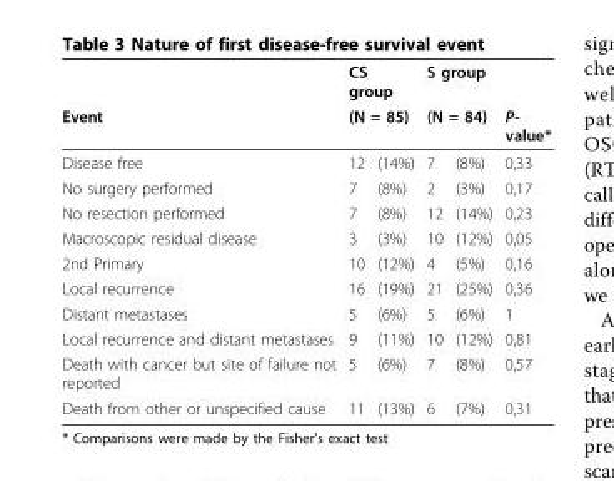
<table><thead><tr><td rowspan="3">Event Disease free</td><td rowspan="2" colspan="2">CS group (N = 85)</td><td rowspan="2" colspan="2">S group (N = 84)</td><td rowspan="3">P- value* 0,33</td></tr><tr></tr><tr><td>12</td><td>(14%)</td><td>7</td><td>(8%)</td></tr></thead><tbody><tr><td>No surgery performed</td><td>7</td><td>(8%)</td><td>2</td><td>(3%)</td><td>0,17</td></tr><tr><td>No resection performed</td><td>7</td><td>(8%)</td><td>12</td><td>(14%)</td><td>0,23</td></tr><tr><td>Macroscopic residual disease</td><td>3</td><td>(3%)</td><td>10</td><td>(12%)</td><td>0,05</td></tr><tr><td>2nd Primary</td><td>10</td><td>(12%)</td><td>4</td><td>(5%)</td><td>0,16</td></tr><tr><td>Local recurrence</td><td>16</td><td>(19%)</td><td>21</td><td>(25%)</td><td>0,36</td></tr><tr><td>Distant metastases</td><td>5</td><td>(6%)</td><td>5</td><td>(6%)</td><td>1</td></tr><tr><td>Local recurrence and distant metastases</td><td>9</td><td>(11%)</td><td>10</td><td>(12%)</td><td>0,81</td></tr><tr><td>Death with cancer but site of failure not reported</td><td>5</td><td>(6%)</td><td>7</td><td>(8%)</td><td>0,57</td></tr><tr><td>Death from other or unspecified cause</td><td>11</td><td>(13%)</td><td>6</td><td>(7%)</td><td>0,31</td></tr></tbody></table>